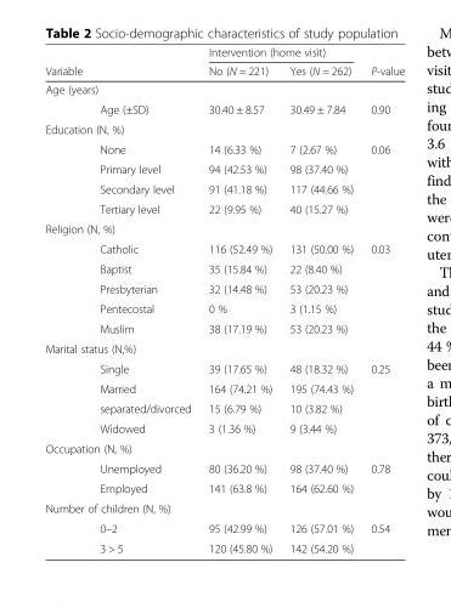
<table><thead><tr><td rowspan="2">Variable</td><td rowspan="2"></td><td colspan="2">Intervention (home visit)</td><td rowspan="2">P-value</td></tr><tr><td>No (N = 221)</td><td>Yes (N = 262)</td></tr></thead><tbody><tr><td colspan="5">Age (years)</td></tr><tr><td></td><td>Age (±SD)</td><td>30.40 ± 8.57</td><td>30.49 ± 7.84</td><td>0.90</td></tr><tr><td colspan="5">Education (N, %)</td></tr><tr><td></td><td>None</td><td>14 (6.33 %)</td><td>7 (2.67 %)</td><td rowspan="4">0.06</td></tr><tr><td></td><td>Primary level</td><td>94 (42.53 %)</td><td>98 (37.40 %)</td></tr><tr><td></td><td>Secondary level</td><td>91 (41.18 %)</td><td>117 (44.66 %)</td></tr><tr><td></td><td>Tertiary level</td><td>22 (9.95 %)</td><td>40 (15.27 %)</td></tr><tr><td colspan="5">Religion (N, %)</td></tr><tr><td></td><td>Catholic</td><td>116 (52.49 %)</td><td>131 (50.00 %)</td><td rowspan="5">0.03</td></tr><tr><td></td><td>Baptist</td><td>35 (15.84 %)</td><td>22 (8.40 %)</td></tr><tr><td></td><td>Presbyterian</td><td>32 (14.48 %)</td><td>53 (20.23 %)</td></tr><tr><td></td><td>Pentecostal</td><td>0 %</td><td>3 (1.15 %)</td></tr><tr><td></td><td>Muslim</td><td>38 (17.19 %)</td><td>53 (20.23 %)</td></tr><tr><td colspan="5">Marital status (N,%)</td></tr><tr><td></td><td>Single</td><td>39 (17.65 %)</td><td>48 (18.32 %)</td><td rowspan="4">0.25</td></tr><tr><td></td><td>Married</td><td>164 (74.21 %)</td><td>195 (74.43 %)</td></tr><tr><td></td><td>separated/divorced</td><td>15 (6.79 %)</td><td>10 (3.82 %)</td></tr><tr><td></td><td>Widowed</td><td>3 (1.36 %)</td><td>9 (3.44 %)</td></tr><tr><td colspan="5">Occupation (N, %)</td></tr><tr><td></td><td>Unemployed</td><td>80 (36.20 %)</td><td>98 (37.40 %)</td><td rowspan="2">0.78</td></tr><tr><td></td><td>Employed</td><td>141 (63.8 %)</td><td>164 (62.60 %)</td></tr><tr><td colspan="5">Number of children (N, %)</td></tr><tr><td></td><td>0–2</td><td>95 (42.99 %)</td><td>126 (57.01 %)</td><td rowspan="2">0.54</td></tr><tr><td></td><td>3 &gt; 5</td><td>120 (45.80 %)</td><td>142 (54.20 %)</td></tr></tbody></table>